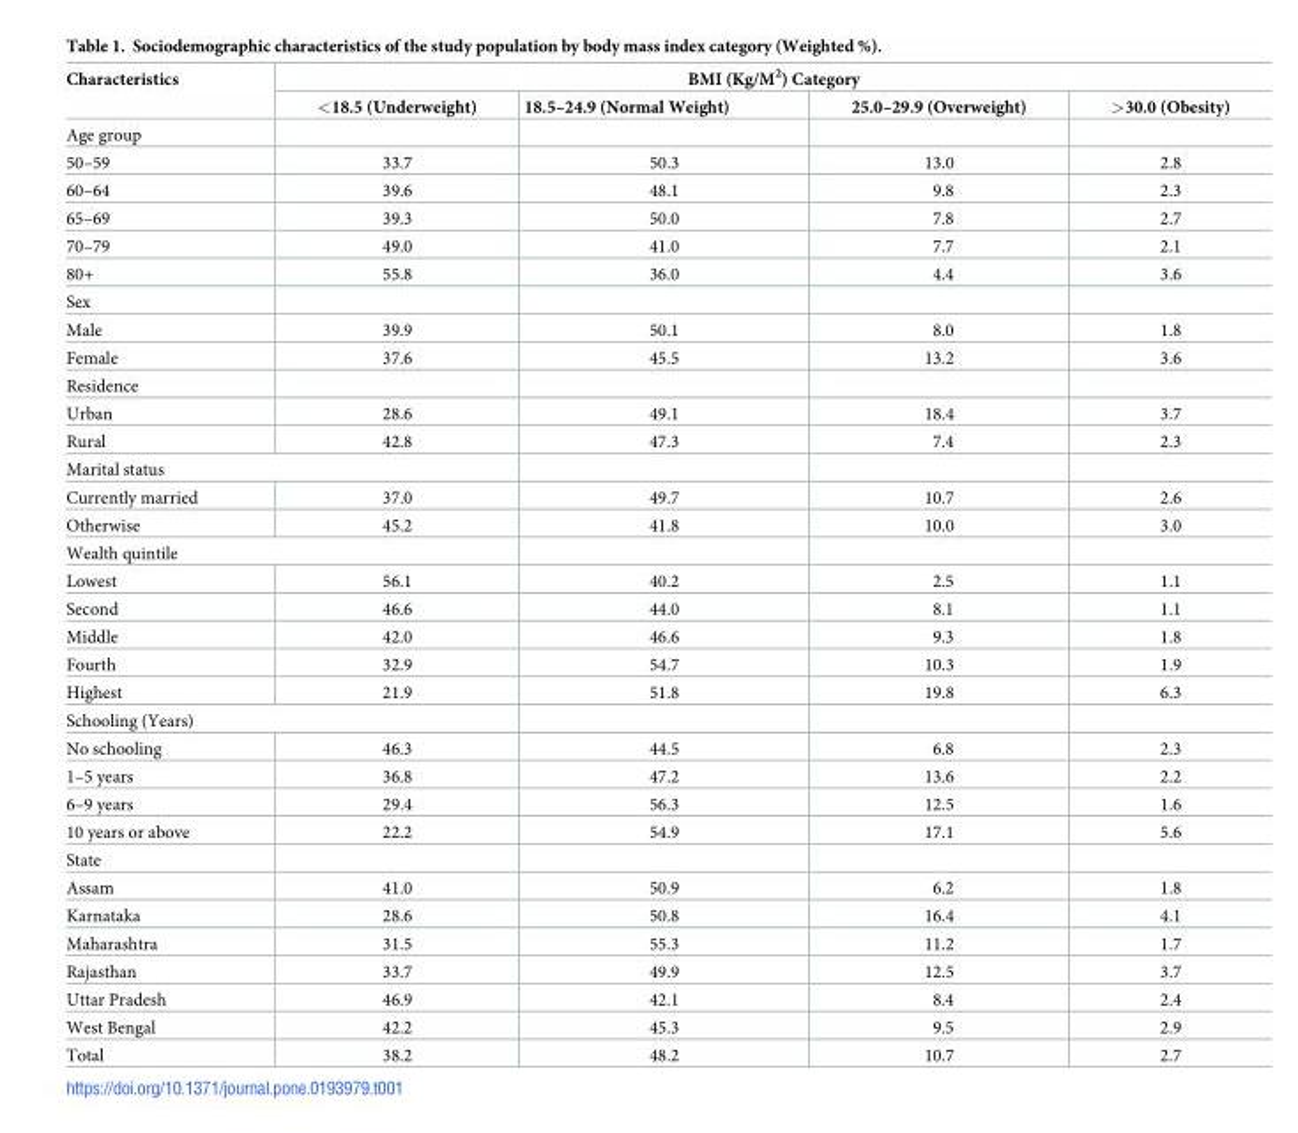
<table><thead><tr><td rowspan="2">Characteristics</td><td colspan="4">BMI (Kg/M<sup>2</sup>) Category</td></tr><tr><td>&lt;18.5 (Underweight)</td><td>18.5–24.9 (Normal Weight)</td><td>25.0–29.9 (Overweight)</td><td>&gt;30.0 (Obesity)</td></tr></thead><tbody><tr><td colspan="5">Age group</td></tr><tr><td>50–59</td><td>33.7</td><td>50.3</td><td>13.0</td><td>2.8</td></tr><tr><td>60–64</td><td>39.6</td><td>48.1</td><td>9.8</td><td>2.3</td></tr><tr><td>65–69</td><td>39.3</td><td>50.0</td><td>7.8</td><td>2.7</td></tr><tr><td>70–79</td><td>49.0</td><td>41.0</td><td>7.7</td><td>2.1</td></tr><tr><td>80+</td><td>55.8</td><td>36.0</td><td>4.4</td><td>3.6</td></tr><tr><td colspan="5">Sex</td></tr><tr><td>Male</td><td>39.9</td><td>50.1</td><td>8.0</td><td>1.8</td></tr><tr><td>Female</td><td>37.6</td><td>45.5</td><td>13.2</td><td>3.6</td></tr><tr><td colspan="5">Residence</td></tr><tr><td>Urban</td><td>28.6</td><td>49.1</td><td>18.4</td><td>3.7</td></tr><tr><td>Rural</td><td>42.8</td><td>47.3</td><td>7.4</td><td>2.3</td></tr><tr><td colspan="5">Marital status</td></tr><tr><td>Currently married</td><td>37.0</td><td>49.7</td><td>10.7</td><td>2.6</td></tr><tr><td>Otherwise</td><td>45.2</td><td>41.8</td><td>10.0</td><td>3.0</td></tr><tr><td colspan="5">Wealth quintile</td></tr><tr><td>Lowest</td><td>56.1</td><td>40.2</td><td>2.5</td><td>1.1</td></tr><tr><td>Second</td><td>46.6</td><td>44.0</td><td>8.1</td><td>1.1</td></tr><tr><td>Middle</td><td>42.0</td><td>46.6</td><td>9.3</td><td>1.8</td></tr><tr><td>Fourth</td><td>32.9</td><td>54.7</td><td>10.3</td><td>1.9</td></tr><tr><td>Highest</td><td>21.9</td><td>51.8</td><td>19.8</td><td>6.3</td></tr><tr><td colspan="5">Schooling (Years)</td></tr><tr><td>No schooling</td><td>46.3</td><td>44.5</td><td>6.8</td><td>2.3</td></tr><tr><td>1–5 years</td><td>36.8</td><td>47.2</td><td>13.6</td><td>2.2</td></tr><tr><td>6–9 years</td><td>29.4</td><td>56.3</td><td>12.5</td><td>1.6</td></tr><tr><td>10 years or above</td><td>22.2</td><td>54.9</td><td>17.1</td><td>5.6</td></tr><tr><td colspan="5">State</td></tr><tr><td>Assam</td><td>41.0</td><td>50.9</td><td>6.2</td><td>1.8</td></tr><tr><td>Karnataka</td><td>28.6</td><td>50.8</td><td>16.4</td><td>4.1</td></tr><tr><td>Maharashtra</td><td>31.5</td><td>55.3</td><td>11.2</td><td>1.7</td></tr><tr><td>Rajasthan</td><td>33.7</td><td>49.9</td><td>12.5</td><td>3.7</td></tr><tr><td>Uttar Pradesh</td><td>46.9</td><td>42.1</td><td>8.4</td><td>2.4</td></tr><tr><td>West Bengal</td><td>42.2</td><td>45.3</td><td>9.5</td><td>2.9</td></tr><tr><td>Total</td><td>38.2</td><td>48.2</td><td>10.7</td><td>2.7</td></tr></tbody></table>